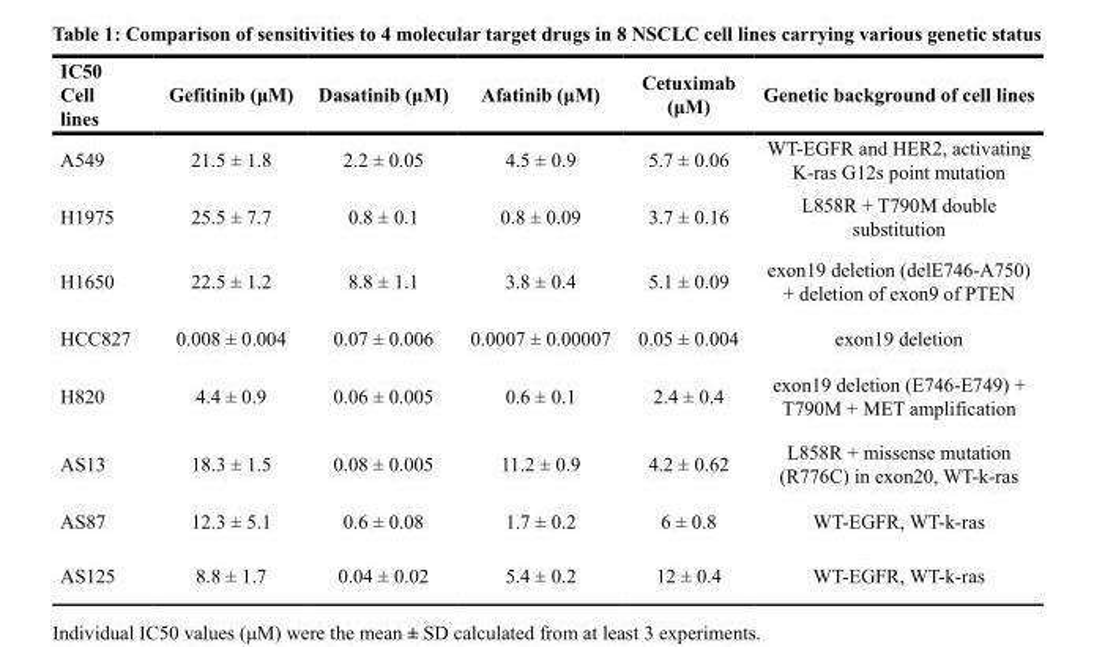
<table><thead><tr><td>IC50 Cell lines</td><td>Gefitinib (μM)</td><td>Dasatinib (μM)</td><td>Afatinib (μM)</td><td>Cetuximab (μM)</td><td>Genetic background of cell lines</td></tr></thead><tbody><tr><td>A549</td><td>21.5 ± 1.8</td><td>2.2 ± 0.05</td><td>4.5 ± 0.9</td><td>5.7 ± 0.06</td><td>WT-EGFR and HER2, activating K-ras G12s point mutation</td></tr><tr><td>H1975</td><td>25.5 ± 7.7</td><td>0.8 ± 0.1</td><td>0.8 ± 0.09</td><td>3.7 ± 0.16</td><td>L858R + T790M double substitution</td></tr><tr><td>H1650</td><td>22.5 ± 1.2</td><td>8.8 ± 1.1</td><td>3.8 ± 0.4</td><td>5.1 ± 0.09</td><td>exon19 deletion (delE746-A750) + deletion of exon9 of PTEN</td></tr><tr><td>HCC827</td><td>0.008 ± 0.004</td><td>0.07 ± 0.006</td><td>0.0007 ± 0.00007</td><td>0.05 ± 0.004</td><td>exon19 deletion</td></tr><tr><td>H820</td><td>4.4 ± 0.9</td><td>0.06 ± 0.005</td><td>0.6 ± 0.1</td><td>2.4 ± 0.4</td><td>exon19 deletion (E746-E749) + T790M + MET amplification</td></tr><tr><td>AS13</td><td>18.3 ± 1.5</td><td>0.08 ± 0.005</td><td>11.2 ± 0.9</td><td>4.2 ± 0.62</td><td>L858R + missense mutation (R776C) in exon20, WT-k-ras</td></tr><tr><td>AS87</td><td>12.3 ± 5.1</td><td>0.6 ± 0.08</td><td>1.7 ± 0.2</td><td>6 ± 0.8</td><td>WT-EGFR, WT-k-ras</td></tr><tr><td>AS125</td><td>8.8 ± 1.7</td><td>0.04 ± 0.02</td><td>5.4 ± 0.2</td><td>12 ± 0.4</td><td>WT-EGFR, WT-k-ras</td></tr></tbody></table>